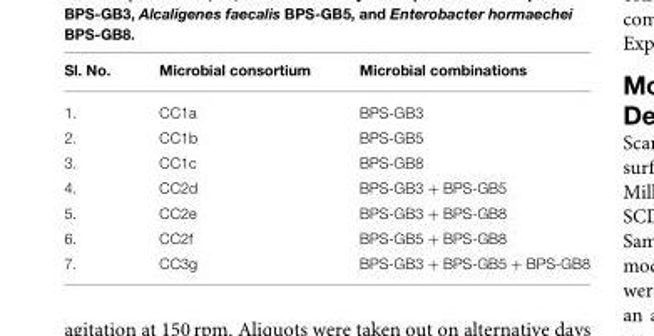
<table><thead><tr><td>Sl. No.</td><td>Microbial consortium</td><td>Microbial combinations</td></tr></thead><tbody><tr><td>1.</td><td>CC1a</td><td>BPS-GB3</td></tr><tr><td>2.</td><td>CC1b</td><td>BPS-GB5</td></tr><tr><td>3.</td><td>CC1c</td><td>BPS-GB8</td></tr><tr><td>4.</td><td>CC2d</td><td>BPS-GB3 + BPS-GB5</td></tr><tr><td>5.</td><td>CC2e</td><td>BPS-GB3 + BPS-GB8</td></tr><tr><td>6.</td><td>CC2f</td><td>BPS-GB5 + BPS-GB8</td></tr><tr><td>7.</td><td>CC3g</td><td>BPS-GB3 + BPS-GB5 + BPS-GB8</td></tr></tbody></table>